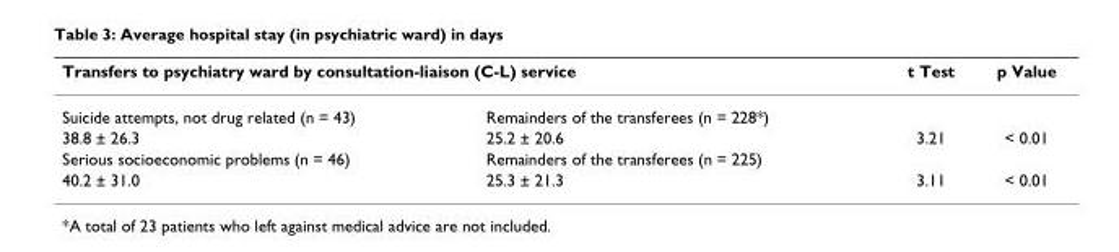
<table><thead><tr><td colspan="2">Transfers to psychiatry ward by consultation-liaison (C-L) service</td><td rowspan="2">t Test</td><td rowspan="2">p Value</td></tr><tr><td>Suicide attempts, not drug related (n = 43)</td><td>Remainders of the transferees (n = 228*)</td></tr></thead><tbody><tr><td>38.8 ± 26.3</td><td>25.2 ± 20.6</td><td>3.21</td><td>&lt; 0.01</td></tr><tr><td>Serious socioeconomic problems (n = 46)</td><td>Remainders of the transferees (n = 225)</td><td></td><td></td></tr><tr><td>40.2 ± 31.0</td><td>25.3 ± 21.3</td><td>3.11</td><td>&lt; 0.01</td></tr></tbody></table>